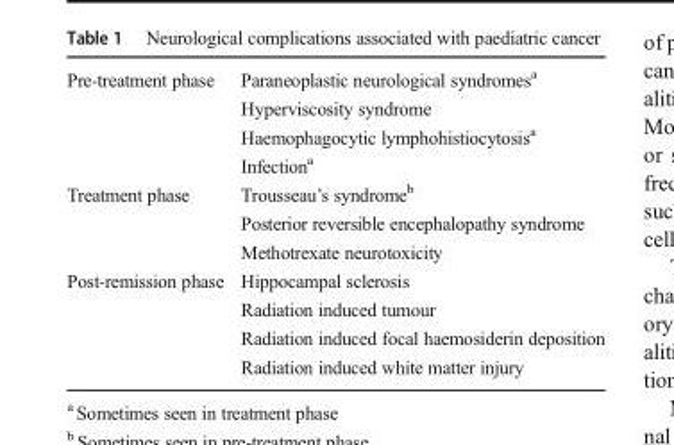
<table><tbody><tr><td rowspan="4">Pre-treatment phase</td><td>Paraneoplastic neurological syndromes<sup>a</sup></td></tr><tr><td>Hyperviscosity syndrome</td></tr><tr><td>Haemophagocytic lymphohistiocytosis<sup>a</sup></td></tr><tr><td>Infection<sup>a</sup></td></tr><tr><td rowspan="3">Treatment phase</td><td>Trousseau’s syndrome<sup>b</sup></td></tr><tr><td>Posterior reversible encephalopathy syndrome</td></tr><tr><td>Methotrexate neurotoxicity</td></tr><tr><td rowspan="4">Post-remission phase</td><td>Hippocampal sclerosis</td></tr><tr><td>Radiation induced tumour</td></tr><tr><td>Radiation induced focal haemosiderin deposition</td></tr><tr><td>Radiation induced white matter injury</td></tr></tbody></table>